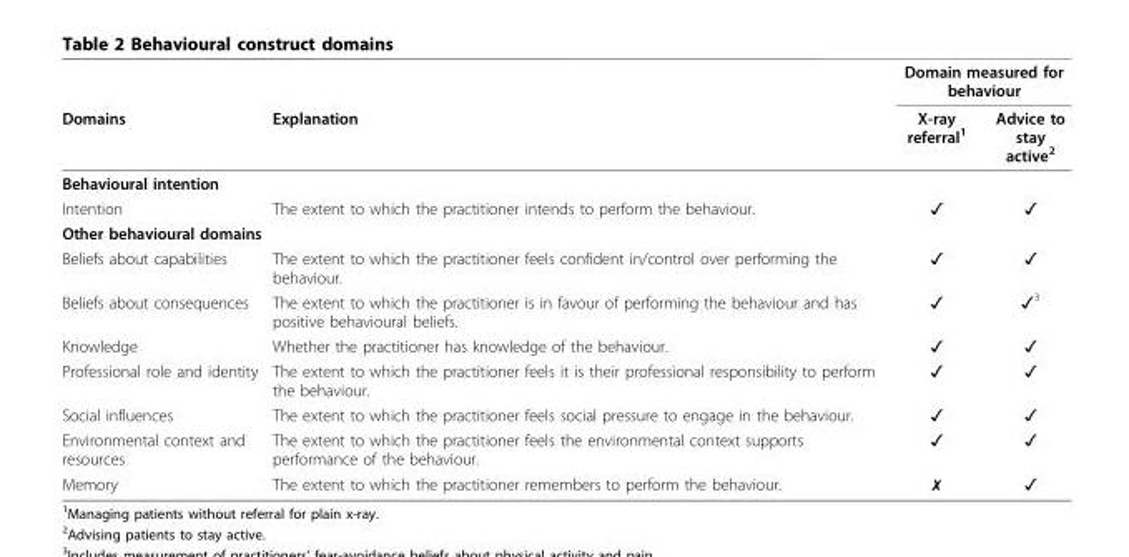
<table><thead><tr><td rowspan="2">Domains</td><td rowspan="2">Explanation</td><td colspan="2">Domain measured for behaviour</td></tr><tr><td>X-ray referral<sup>1</sup></td><td>Advice to stay active<sup>2</sup></td></tr></thead><tbody><tr><td colspan="4">Behavioural intention</td></tr><tr><td>Intention</td><td>The extent to which the practitioner intends to perform the behaviour.</td><td>✓</td><td>✓</td></tr><tr><td colspan="4">Other behavioural domains</td></tr><tr><td>Beliefs about capabilities</td><td>The extent to which the practitioner feels confident in/control over performing the behaviour.</td><td>✓</td><td>✓</td></tr><tr><td>Beliefs about consequences</td><td>The extent to which the practitioner is in favour of performing the behaviour and has positive behavioural beliefs.</td><td>✓</td><td>✓<sup>3</sup></td></tr><tr><td>Knowledge</td><td>Whether the practitioner has knowledge of the behaviour.</td><td>✓</td><td>✓</td></tr><tr><td>Professional role and identity</td><td>The extent to which the practitioner feels it is their professional responsibility to perform the behaviour.</td><td>✓</td><td>✓</td></tr><tr><td>Social influences</td><td>The extent to which the practitioner feels social pressure to engage in the behaviour.</td><td>✓</td><td>✓</td></tr><tr><td>Environmental context and resources</td><td>The extent to which the practitioner feels the environmental context supports performance of the behaviour.</td><td>✓</td><td>✓</td></tr><tr><td>Memory</td><td>The extent to which the practitioner remembers to perform the behaviour.</td><td>✗</td><td>✓</td></tr></tbody></table>